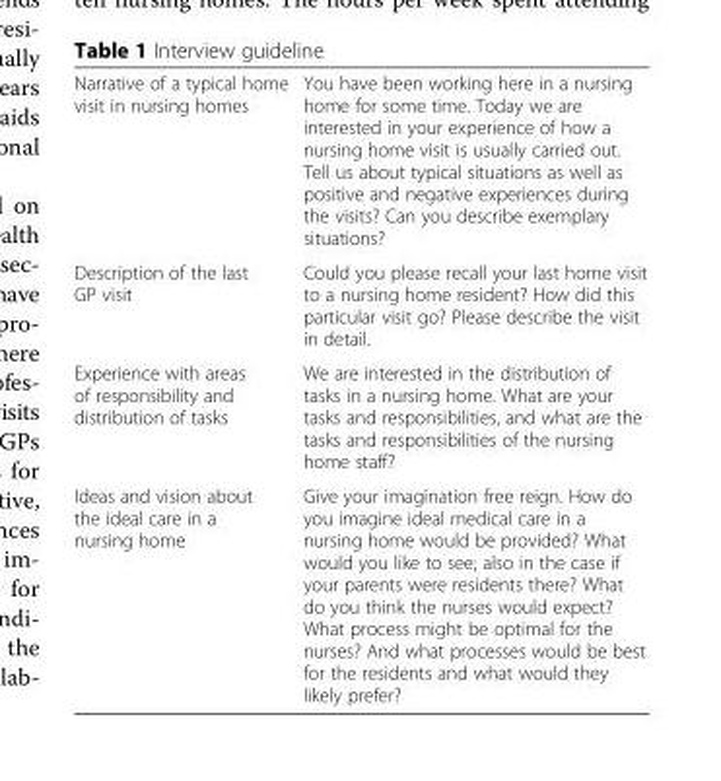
<table><tbody><tr><td>Narrative of a typical home visit in nursing homes</td><td>You have been working here in a nursing home for some time. Today we are interested in your experience of how a nursing home visit is usually carried out. Tell us about typical situations as well as positive and negative experiences during the visits? Can you describe exemplary situations?</td></tr><tr><td>Description of the last GP visit</td><td>Could you please recall your last home visit to a nursing home resident? How did this particular visit go? Please describe the visit in detail.</td></tr><tr><td>Experience with areas of responsibility and distribution of tasks</td><td>We are interested in the distribution of tasks in a nursing home. What are your tasks and responsibilities, and what are the tasks and responsibilities of the nursing home staff?</td></tr><tr><td>Ideas and vision about the ideal care in a nursing home</td><td>Give your imagination free reign. How do you imagine ideal medical care in a nursing home would be provided? What would you like to see; also in the case if your parents were residents there? What do you think the nurses would expect? What process might be optimal for the nurses? And what processes would be best for the residents and what would they likely prefer?</td></tr></tbody></table>